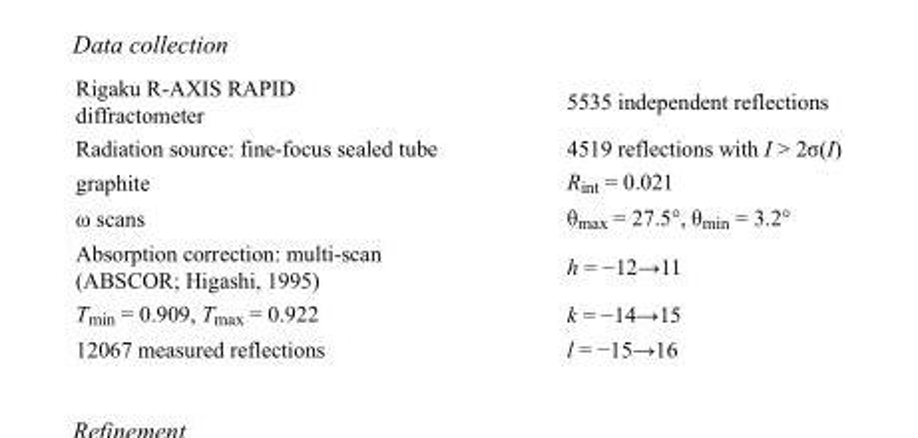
<table><tbody><tr><td>Rigaku R-AXIS RAPID diffractometer</td><td>5535 independent reflections</td></tr><tr><td>Radiation source: fine-focus sealed tube</td><td>4519 reflections with I &gt; 2σ(I)</td></tr><tr><td>graphite</td><td>R<sub>int</sub> = 0.021</td></tr><tr><td>ω scans</td><td>θ<sub>max</sub> = 27.5°, θ<sub>min</sub> = 3.2°</td></tr><tr><td>Absorption correction: multi-scan (ABSCOR; Higashi, 1995)</td><td>h = −12→11</td></tr><tr><td>T<sub>min</sub> = 0.909, T<sub>max</sub> = 0.922</td><td>k = −14→15</td></tr><tr><td>12067 measured reflections</td><td>l = −15→16</td></tr></tbody></table>